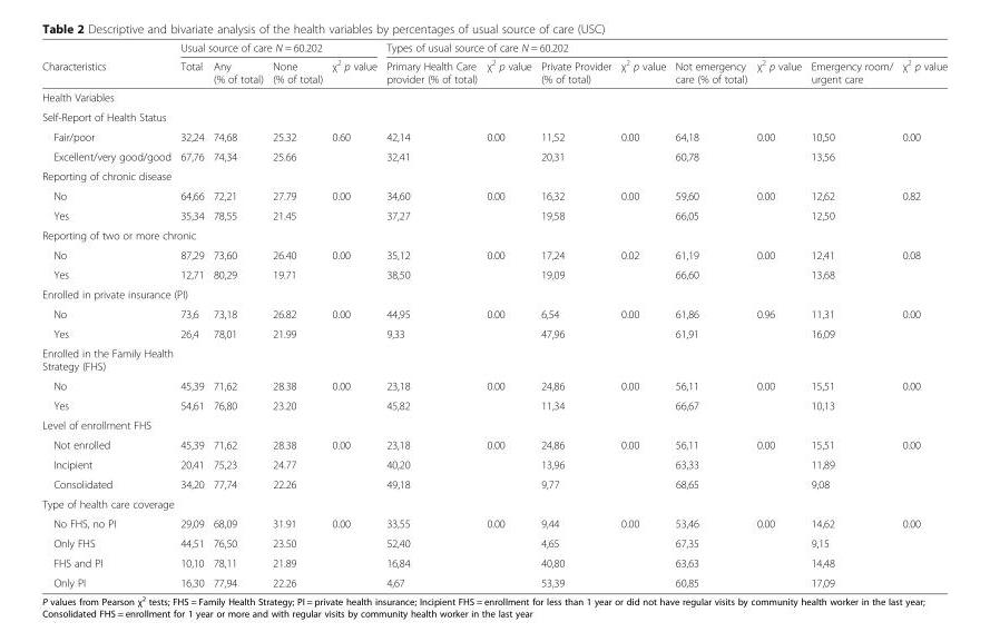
<table><thead><tr><td rowspan="2">Characteristics</td><td colspan="4">Usual source of care N = 60.202</td><td colspan="8">Types of usual source of care N = 60.202</td></tr><tr><td>Total</td><td>Any (% of total)</td><td>None (% of total)</td><td>χ<sup>2</sup> p value</td><td>Primary Health Care provider (% of total)</td><td>χ<sup>2</sup> p value</td><td>Private Provider (% of total)</td><td>χ<sup>2</sup> p value</td><td>Not emergency care (% of total)</td><td>χ<sup>2</sup> p value</td><td>Emergency room/ urgent care</td><td>χ<sup>2</sup> p value</td></tr></thead><tbody><tr><td colspan="13">Health Variables</td></tr><tr><td colspan="13">Self-Report of Health Status</td></tr><tr><td>Fair/poor</td><td>32,24</td><td>74,68</td><td>25.32</td><td>0.60</td><td>42,14</td><td>0.00</td><td>11,52</td><td>0.00</td><td>64,18</td><td>0.00</td><td>10,50</td><td>0.00</td></tr><tr><td>Excellent/very good/good</td><td>67,76</td><td>74,34</td><td>25.66</td><td></td><td>32,41</td><td></td><td>20,31</td><td></td><td>60,78</td><td></td><td>13,56</td><td></td></tr><tr><td colspan="13">Reporting of chronic disease</td></tr><tr><td>No</td><td>64,66</td><td>72,21</td><td>27.79</td><td>0.00</td><td>34,60</td><td>0.00</td><td>16,32</td><td>0.00</td><td>59,60</td><td>0.00</td><td>12,62</td><td>0.82</td></tr><tr><td>Yes</td><td>35,34</td><td>78,55</td><td>21.45</td><td></td><td>37,27</td><td></td><td>19,58</td><td></td><td>66,05</td><td></td><td>12,50</td><td></td></tr><tr><td colspan="13">Reporting of two or more chronic</td></tr><tr><td>No</td><td>87,29</td><td>73,60</td><td>26.40</td><td>0.00</td><td>35,12</td><td>0.00</td><td>17,24</td><td>0.02</td><td>61,19</td><td>0.00</td><td>12,41</td><td>0.08</td></tr><tr><td>Yes</td><td>12,71</td><td>80,29</td><td>19.71</td><td></td><td>38,50</td><td></td><td>19,09</td><td></td><td>66,60</td><td></td><td>13,68</td><td></td></tr><tr><td colspan="13">Enrolled in private insurance (PI)</td></tr><tr><td>No</td><td>73,6</td><td>73,18</td><td>26.82</td><td>0.00</td><td>44,95</td><td>0.00</td><td>6,54</td><td>0.00</td><td>61,86</td><td>0.96</td><td>11,31</td><td>0.00</td></tr><tr><td>Yes</td><td>26,4</td><td>78,01</td><td>21.99</td><td></td><td>9,33</td><td></td><td>47,96</td><td></td><td>61,91</td><td></td><td>16,09</td><td></td></tr><tr><td colspan="13">Enrolled in the Family Health Strategy (FHS)</td></tr><tr><td>No</td><td>45,39</td><td>71,62</td><td>28.38</td><td>0.00</td><td>23,18</td><td>0.00</td><td>24,86</td><td>0.00</td><td>56,11</td><td>0.00</td><td>15,51</td><td>0.00</td></tr><tr><td>Yes</td><td>54,61</td><td>76,80</td><td>23.20</td><td></td><td>45,82</td><td></td><td>11,34</td><td></td><td>66,67</td><td></td><td>10,13</td><td></td></tr><tr><td colspan="13">Level of enrollment FHS</td></tr><tr><td>Not enrolled</td><td>45,39</td><td>71,62</td><td>28.38</td><td>0.00</td><td>23,18</td><td>0.00</td><td>24,86</td><td>0.00</td><td>56,11</td><td>0.00</td><td>15,51</td><td>0.00</td></tr><tr><td>Incipient</td><td>20,41</td><td>75,23</td><td>24.77</td><td></td><td>40,20</td><td></td><td>13,96</td><td></td><td>63,33</td><td></td><td>11,89</td><td></td></tr><tr><td>Consolidated</td><td>34,20</td><td>77,74</td><td>22.26</td><td></td><td>49,18</td><td></td><td>9,77</td><td></td><td>68,65</td><td></td><td>9,08</td><td></td></tr><tr><td colspan="13">Type of health care coverage</td></tr><tr><td>No FHS, no PI</td><td>29,09</td><td>68,09</td><td>31.91</td><td>0.00</td><td>33,55</td><td>0.00</td><td>9,44</td><td>0.00</td><td>53,46</td><td>0.00</td><td>14,62</td><td>0.00</td></tr><tr><td>Only FHS</td><td>44,51</td><td>76,50</td><td>23.50</td><td></td><td>52,40</td><td></td><td>4,65</td><td></td><td>67,35</td><td></td><td>9,15</td><td></td></tr><tr><td>FHS and PI</td><td>10,10</td><td>78,11</td><td>21.89</td><td></td><td>16,84</td><td></td><td>40,80</td><td></td><td>63,63</td><td></td><td>14,48</td><td></td></tr><tr><td>Only PI</td><td>16,30</td><td>77,94</td><td>22.26</td><td></td><td>4,67</td><td></td><td>53,39</td><td></td><td>60,85</td><td></td><td>17,09</td><td></td></tr></tbody></table>